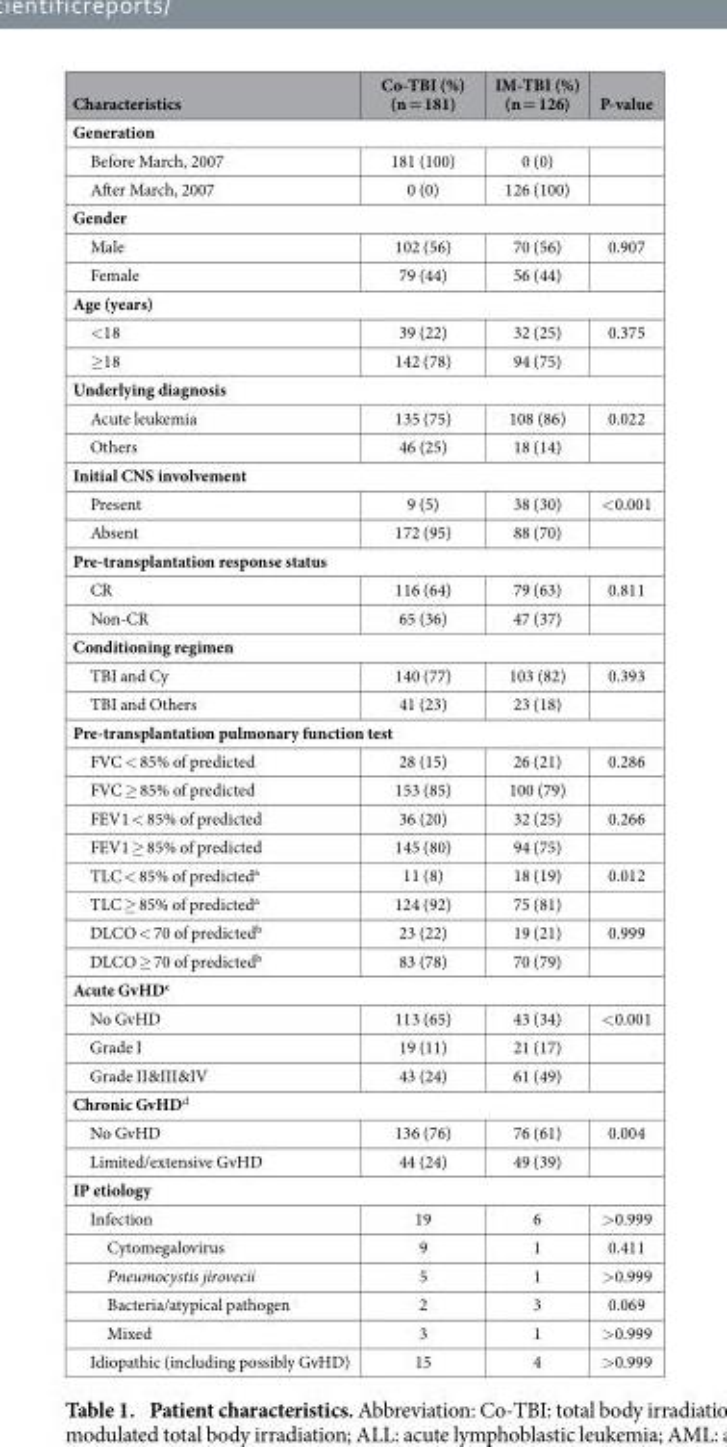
<table><thead><tr><td>Characteristics</td><td>Co-TBI (%) (n = 181)</td><td>IM-TBI (%) (n = 126)</td><td>P-value</td></tr></thead><tbody><tr><td colspan="4">Generation</td></tr><tr><td>Before March, 2007</td><td>181 (100)</td><td>0 (0)</td><td></td></tr><tr><td>After March, 2007</td><td>0 (0)</td><td>126 (100)</td><td></td></tr><tr><td colspan="4">Gender</td></tr><tr><td>Male</td><td>102 (56)</td><td>70 (56)</td><td>0.907</td></tr><tr><td>Female</td><td>79 (44)</td><td>56 (44)</td><td></td></tr><tr><td colspan="4">Age (years)</td></tr><tr><td>&lt; 18</td><td>39 (22)</td><td>32 (25)</td><td>0.375</td></tr><tr><td>≥ 18</td><td>142 (78)</td><td>94 (75)</td><td></td></tr><tr><td colspan="4">Underlying diagnosis</td></tr><tr><td>Acute leukemia</td><td>135 (75)</td><td>108 (86)</td><td>0.022</td></tr><tr><td>Others</td><td>46 (25)</td><td>18 (14)</td><td></td></tr><tr><td colspan="4">Initial CNS involvement</td></tr><tr><td>Present</td><td>9 (5)</td><td>38 (30)</td><td>&lt; 0.001</td></tr><tr><td>Absent</td><td>172 (95)</td><td>88 (70)</td><td></td></tr><tr><td colspan="4">Pre-transplantation response status</td></tr><tr><td>CR</td><td>116 (64)</td><td>79 (63)</td><td>0.811</td></tr><tr><td>Non-CR</td><td>65 (36)</td><td>47 (37)</td><td></td></tr><tr><td colspan="4">Conditioning regimen</td></tr><tr><td>TBI and Cy</td><td>140 (77)</td><td>103 (82)</td><td>0.393</td></tr><tr><td>TBI and Others</td><td>41 (23)</td><td>23 (18)</td><td></td></tr><tr><td colspan="4">Pre-transplantation pulmonary function test</td></tr><tr><td>FVC &lt; 85% of predicted</td><td>28 (15)</td><td>26 (21)</td><td>0.286</td></tr><tr><td>FVC ≥ 85% of predicted</td><td>153 (85)</td><td>100 (79)</td><td></td></tr><tr><td>FEV1 &lt; 85% of predicted</td><td>36 (20)</td><td>32 (25)</td><td>0.266</td></tr><tr><td>FEV1 ≥ 85% of predicted</td><td>145 (80)</td><td>94 (75)</td><td></td></tr><tr><td>TLC &lt; 85% of predicted<sup>a</sup></td><td>11 (8)</td><td>18 (19)</td><td>0.012</td></tr><tr><td>TLC ≥ 85% of predicted<sup>a</sup></td><td>124 (92)</td><td>75 (81)</td><td></td></tr><tr><td>DLCO &lt; 70 of predicted<sup>b</sup></td><td>23 (22)</td><td>19 (21)</td><td>0.999</td></tr><tr><td>DLCO ≥ 70 of predicted<sup>b</sup></td><td>83 (78)</td><td>70 (79)</td><td></td></tr><tr><td colspan="4">Acute GvHD<sup>c</sup></td></tr><tr><td>No GvHD</td><td>113 (65)</td><td>43 (34)</td><td>&lt; 0.001</td></tr><tr><td>Grade I</td><td>19 (11)</td><td>21 (17)</td><td></td></tr><tr><td>Grade II&amp;III&amp;IV</td><td>43 (24)</td><td>61 (49)</td><td></td></tr><tr><td colspan="4">Chronic GvHD<sup>d</sup></td></tr><tr><td>No GvHD</td><td>136 (76)</td><td>76 (61)</td><td>0.004</td></tr><tr><td>Limited/extensive GvHD</td><td>44 (24)</td><td>49 (39)</td><td></td></tr><tr><td colspan="4">IP etiology</td></tr><tr><td>Infection</td><td>19</td><td>6</td><td>&gt; 0.999</td></tr><tr><td>Cytomegalovirus</td><td>9</td><td>1</td><td>0.411</td></tr><tr><td>Pneumocystis jirovecii</td><td>5</td><td>1</td><td>&gt; 0.999</td></tr><tr><td>Bacteria/atypical pathogen</td><td>2</td><td>3</td><td>0.069</td></tr><tr><td>Mixed</td><td>3</td><td>1</td><td>&gt; 0.999</td></tr><tr><td>Idiopathic (including possibly GvHD)</td><td>15</td><td>4</td><td>&gt; 0.999</td></tr></tbody></table>